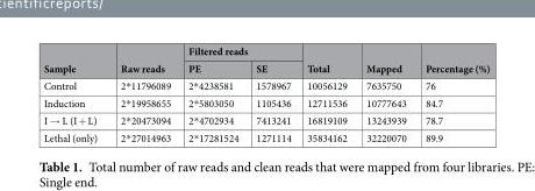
<table><thead><tr><td rowspan="2">Sample</td><td rowspan="2">Raw reads</td><td colspan="2">Filtered reads</td><td rowspan="2">Total</td><td rowspan="2">Mapped</td><td rowspan="2">Percentage (%)</td></tr><tr><td>PE</td><td>SE</td></tr></thead><tbody><tr><td>Control</td><td>2*11796089</td><td>2*4238581</td><td>1578967</td><td>10056129</td><td>7635750</td><td>76</td></tr><tr><td>Induction</td><td>2*19958655</td><td>2*5803050</td><td>1105436</td><td>12711536</td><td>10777643</td><td>84.7</td></tr><tr><td>I → L (I + L)</td><td>2*20473094</td><td>2*4702934</td><td>7413241</td><td>16819109</td><td>13243939</td><td>78.7</td></tr><tr><td>Lethal (only)</td><td>2*27014963</td><td>2*17281524</td><td>1271114</td><td>35834162</td><td>32220070</td><td>89.9</td></tr></tbody></table>